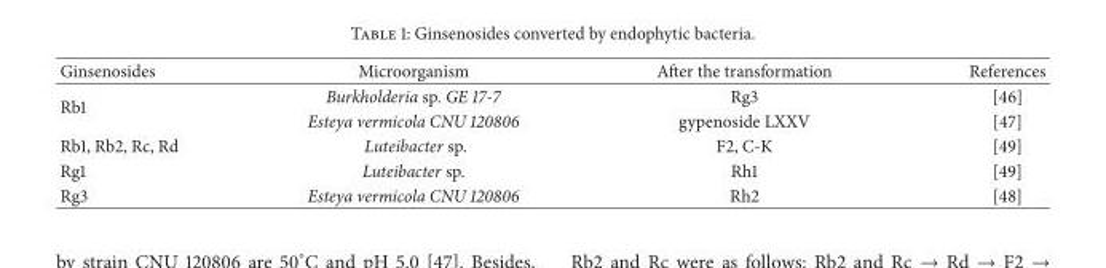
<table><thead><tr><td>Ginsenosides</td><td>Microorganism</td><td>After the transformation</td><td>References</td></tr></thead><tbody><tr><td rowspan="2">Rb1</td><td>Burkholderia sp. GE 17-7</td><td>Rg3</td><td>[46]</td></tr><tr><td>Esteya vermicola CNU 120806</td><td>gypenoside LXXV</td><td>[47]</td></tr><tr><td>Rb1, Rb2, Rc, Rd</td><td>Luteibacter sp.</td><td>F2, C-K</td><td>[49]</td></tr><tr><td>Rg1</td><td>Luteibacter sp.</td><td>Rh1</td><td>[49]</td></tr><tr><td>Rg3</td><td>Esteya vermicola CNU 120806</td><td>Rh2</td><td>[48]</td></tr></tbody></table>